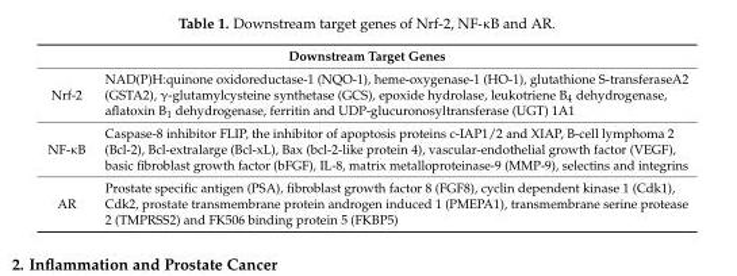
<table><thead><tr><td colspan="2">Downstream Target Genes</td></tr><tr><td>Nrf-2</td><td>NAD(P)H:quinone oxidoreductase-1 (NQO-1), heme-oxygenase-1 (HO-1), glutathione S-transferaseA2 (GSTA2), γ-glutamylcysteine synthetase (GCS), epoxide hydrolase, leukotriene B<sub>4</sub> dehydrogenase, aflatoxin B<sub>1</sub> dehydrogenase, ferritin and UDP-glucuronosyltransferase (UGT) 1A1</td></tr></thead><tbody><tr><td>NF-κB</td><td>Caspase-8 inhibitor FLIP, the inhibitor of apoptosis proteins c-IAP1/2 and XIAP, B-cell lymphoma 2 (Bcl-2), Bcl-extralarge (Bcl-xL), Bax (bcl-2-like protein 4), vascular-endothelial growth factor (VEGF), basic fibroblast growth factor (bFGF), IL-8, matrix metalloproteinase-9 (MMP-9), selectins and integrins</td></tr><tr><td>AR</td><td>Prostate specific antigen (PSA), fibroblast growth factor 8 (FGF8), cyclin dependent kinase 1 (Cdk1), Cdk2, prostate transmembrane protein androgen induced 1 (PMEPA1), transmembrane serine protease 2 (TMPRSS2) and FK506 binding protein 5 (FKBP5)</td></tr></tbody></table>